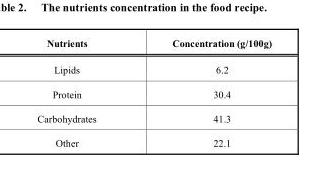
<table><thead><tr><td>Nutrients</td><td>Concentration (g/100g)</td></tr></thead><tbody><tr><td>Lipids</td><td>6.2</td></tr><tr><td>Protein</td><td>30.4</td></tr><tr><td>Carbohydrates</td><td>41.3</td></tr><tr><td>Other</td><td>22.1</td></tr></tbody></table>